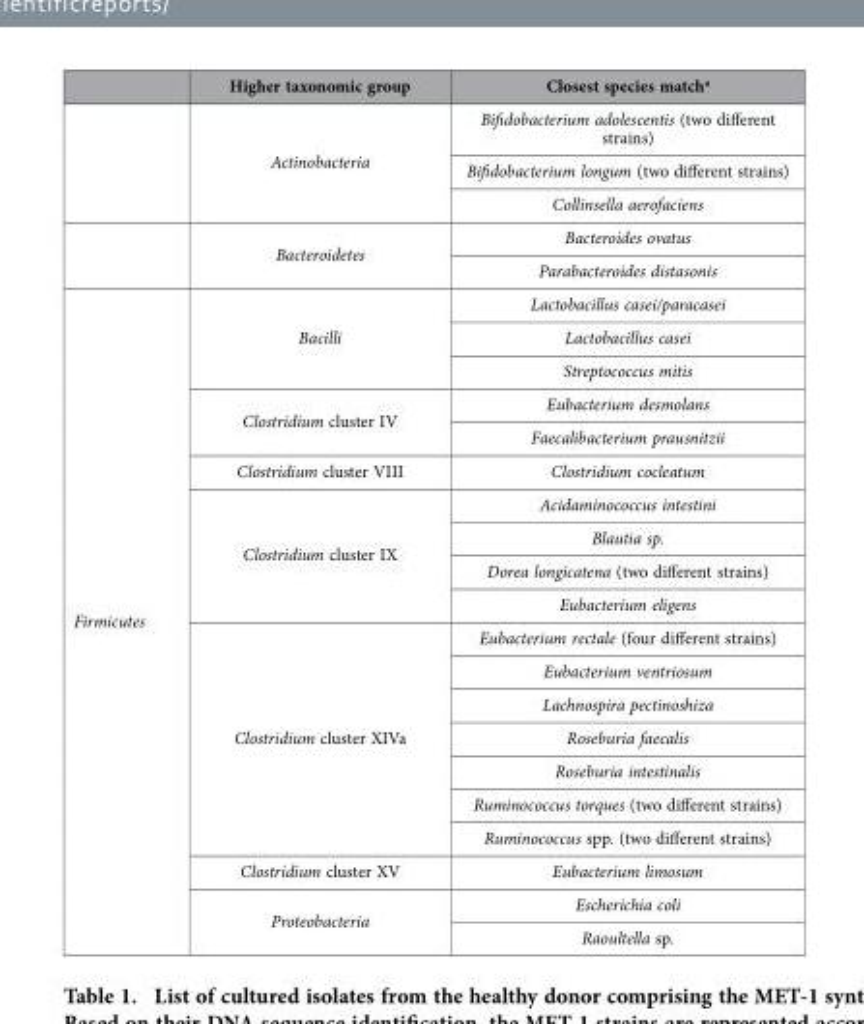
<table><thead><tr><td></td><td>Higher taxonomic group</td><td>Closest species match<sup>a</sup></td></tr></thead><tbody><tr><td rowspan="3"></td><td rowspan="3">Actinobacteria</td><td>Bifidobacterium adolescentis (two different strains)</td></tr><tr><td>Bifidobacterium longum (two different strains)</td></tr><tr><td>Collinsella aerofaciens</td></tr><tr><td rowspan="2"></td><td rowspan="2">Bacteroidetes</td><td>Bacteroides ovatus</td></tr><tr><td>Parabacteroides distasonis</td></tr><tr><td rowspan="20">Firmicutes</td><td rowspan="3">Bacilli</td><td>Lactobacillus casei/paracasei</td></tr><tr><td>Lactobacillus casei</td></tr><tr><td>Streptococcus mitis</td></tr><tr><td rowspan="2">Clostridium cluster IV</td><td>Eubacterium desmolans</td></tr><tr><td>Faecalibacterium prausnitzii</td></tr><tr><td>Clostridium cluster VIII</td><td>Clostridium cocleatum</td></tr><tr><td rowspan="4">Clostridium cluster IX</td><td>Acidaminococcus intestini</td></tr><tr><td>Blautia sp.</td></tr><tr><td>Dorea longicatena (two different strains)</td></tr><tr><td>Eubacterium eligens</td></tr><tr><td rowspan="7">Clostridium cluster XIVa</td><td>Eubacterium rectale (four different strains)</td></tr><tr><td>Eubacterium ventriosum</td></tr><tr><td>Lachnospira pectinoshiza</td></tr><tr><td>Roseburia faecalis</td></tr><tr><td>Roseburia intestinalis</td></tr><tr><td>Ruminococcus torques (two different strains)</td></tr><tr><td>Ruminococcus spp. (two different strains)</td></tr><tr><td>Clostridium cluster XV</td><td>Eubacterium limosum</td></tr><tr><td rowspan="2">Proteobacteria</td><td>Escherichia coli</td></tr><tr><td>Raoultella sp.</td></tr></tbody></table>